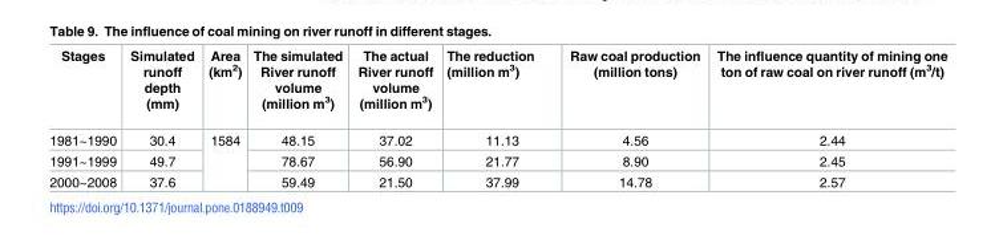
<table><thead><tr><td>Stages</td><td>Simulated runoff depth (mm)</td><td>Area (km<sup>2</sup>)</td><td>The simulated River runoff volume (million m<sup>3</sup>)</td><td>The actual River runoff volume (million m<sup>3</sup>)</td><td>The reduction (million m<sup>3</sup>)</td><td>Raw coal production (million tons)</td><td>The influence quantity of mining one ton of raw coal on river runoff (m<sup>3</sup>/t)</td></tr></thead><tbody><tr><td>1981~1990</td><td>30.4</td><td rowspan="3">1584</td><td>48.15</td><td>37.02</td><td>11.13</td><td>4.56</td><td>2.44</td></tr><tr><td>1991~1999</td><td>49.7</td><td>78.67</td><td>56.90</td><td>21.77</td><td>8.90</td><td>2.45</td></tr><tr><td>2000~2008</td><td>37.6</td><td>59.49</td><td>21.50</td><td>37.99</td><td>14.78</td><td>2.57</td></tr></tbody></table>